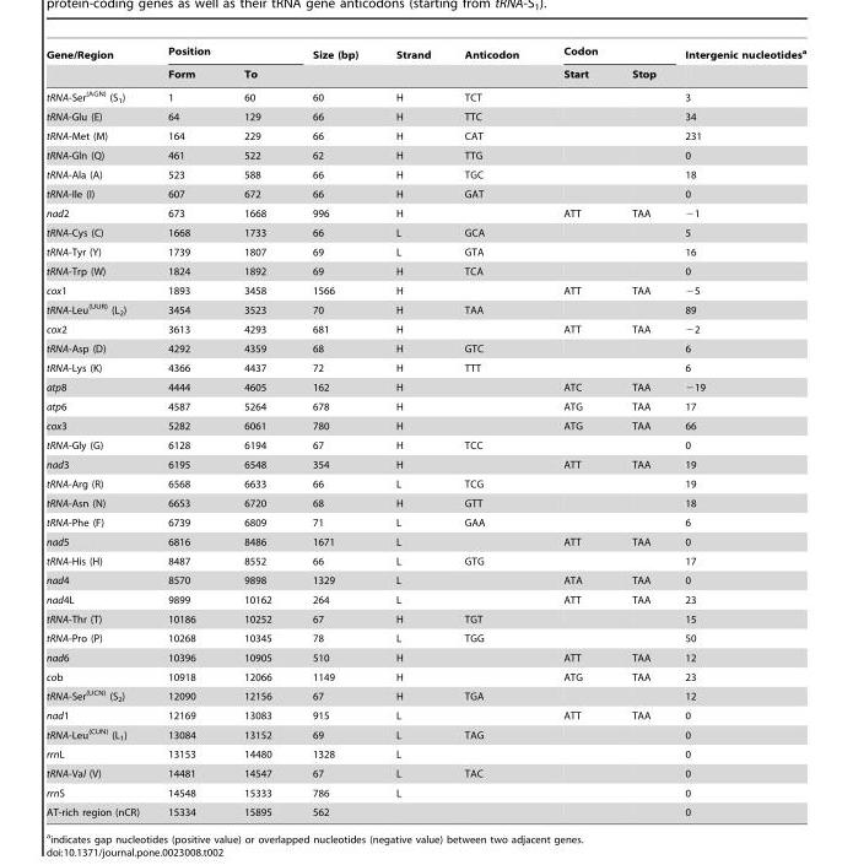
<table><thead><tr><td rowspan="2">Gene/Region</td><td colspan="2">Position</td><td rowspan="2">Size (bp)</td><td rowspan="2">Strand</td><td rowspan="2">Anticodon</td><td colspan="2">Codon</td><td rowspan="2">Intergenic nucleotides<sup>a</sup></td></tr><tr><td>Form</td><td>To</td><td>Start</td><td>Stop</td></tr></thead><tbody><tr><td>tRNA-Ser<sup>(AGN)</sup> (S<sub>1</sub>)</td><td>1</td><td>60</td><td>60</td><td>H</td><td>TCT</td><td></td><td></td><td>3</td></tr><tr><td>tRNA-Glu (E)</td><td>64</td><td>129</td><td>66</td><td>H</td><td>TTC</td><td></td><td></td><td>34</td></tr><tr><td>tRNA-Met (M)</td><td>164</td><td>229</td><td>66</td><td>H</td><td>CAT</td><td></td><td></td><td>231</td></tr><tr><td>tRNA-Gln (Q)</td><td>461</td><td>522</td><td>62</td><td>H</td><td>TTG</td><td></td><td></td><td>0</td></tr><tr><td>tRNA-Ala (A)</td><td>523</td><td>588</td><td>66</td><td>H</td><td>TGC</td><td></td><td></td><td>18</td></tr><tr><td>tRNA-Ile (I)</td><td>607</td><td>672</td><td>66</td><td>H</td><td>GAT</td><td></td><td></td><td>0</td></tr><tr><td>nad2</td><td>673</td><td>1668</td><td>996</td><td>H</td><td></td><td>ATT</td><td>TAA</td><td>−1</td></tr><tr><td>tRNA-Cys (C)</td><td>1668</td><td>1733</td><td>66</td><td>L</td><td>GCA</td><td></td><td></td><td>5</td></tr><tr><td>tRNA-Tyr (Y)</td><td>1739</td><td>1807</td><td>69</td><td>L</td><td>GTA</td><td></td><td></td><td>16</td></tr><tr><td>tRNA-Trp (W)</td><td>1824</td><td>1892</td><td>69</td><td>H</td><td>TCA</td><td></td><td></td><td>0</td></tr><tr><td>cox1</td><td>1893</td><td>3458</td><td>1566</td><td>H</td><td></td><td>ATT</td><td>TAA</td><td>−5</td></tr><tr><td>tRNA-Leu<sup>(UUR)</sup> (L<sub>2</sub>)</td><td>3454</td><td>3523</td><td>70</td><td>H</td><td>TAA</td><td></td><td></td><td>89</td></tr><tr><td>cox2</td><td>3613</td><td>4293</td><td>681</td><td>H</td><td></td><td>ATT</td><td>TAA</td><td>−2</td></tr><tr><td>tRNA-Asp (D)</td><td>4292</td><td>4359</td><td>68</td><td>H</td><td>GTC</td><td></td><td></td><td>6</td></tr><tr><td>tRNA-Lys (K)</td><td>4366</td><td>4437</td><td>72</td><td>H</td><td>TTT</td><td></td><td></td><td>6</td></tr><tr><td>atp8</td><td>4444</td><td>4605</td><td>162</td><td>H</td><td></td><td>ATC</td><td>TAA</td><td>−19</td></tr><tr><td>atp6</td><td>4587</td><td>5264</td><td>678</td><td>H</td><td></td><td>ATG</td><td>TAA</td><td>17</td></tr><tr><td>cox3</td><td>5282</td><td>6061</td><td>780</td><td>H</td><td></td><td>ATG</td><td>TAA</td><td>66</td></tr><tr><td>tRNA-Gly (G)</td><td>6128</td><td>6194</td><td>67</td><td>H</td><td>TCC</td><td></td><td></td><td>0</td></tr><tr><td>nad3</td><td>6195</td><td>6548</td><td>354</td><td>H</td><td></td><td>ATT</td><td>TAA</td><td>19</td></tr><tr><td>tRNA-Arg (R)</td><td>6568</td><td>6633</td><td>66</td><td>L</td><td>TCG</td><td></td><td></td><td>19</td></tr><tr><td>tRNA-Asn (N)</td><td>6653</td><td>6720</td><td>68</td><td>H</td><td>GTT</td><td></td><td></td><td>18</td></tr><tr><td>tRNA-Phe (F)</td><td>6739</td><td>6809</td><td>71</td><td>L</td><td>GAA</td><td></td><td></td><td>6</td></tr><tr><td>nad5</td><td>6816</td><td>8486</td><td>1671</td><td>L</td><td></td><td>ATT</td><td>TAA</td><td>0</td></tr><tr><td>tRNA-His (H)</td><td>8487</td><td>8552</td><td>66</td><td>L</td><td>GTG</td><td></td><td></td><td>17</td></tr><tr><td>nad4</td><td>8570</td><td>9898</td><td>1329</td><td>L</td><td></td><td>ATA</td><td>TAA</td><td>0</td></tr><tr><td>nad4L</td><td>9899</td><td>10162</td><td>264</td><td>L</td><td></td><td>ATT</td><td>TAA</td><td>23</td></tr><tr><td>tRNA-Thr (T)</td><td>10186</td><td>10252</td><td>67</td><td>H</td><td>TGT</td><td></td><td></td><td>15</td></tr><tr><td>tRNA-Pro (P)</td><td>10268</td><td>10345</td><td>78</td><td>L</td><td>TGG</td><td></td><td></td><td>50</td></tr><tr><td>nad6</td><td>10396</td><td>10905</td><td>510</td><td>H</td><td></td><td>ATT</td><td>TAA</td><td>12</td></tr><tr><td>cob</td><td>10918</td><td>12066</td><td>1149</td><td>H</td><td></td><td>ATG</td><td>TAA</td><td>23</td></tr><tr><td>tRNA-Ser<sup>(UCN)</sup> (S<sub>2</sub>)</td><td>12090</td><td>12156</td><td>67</td><td>H</td><td>TGA</td><td></td><td></td><td>12</td></tr><tr><td>nad1</td><td>12169</td><td>13083</td><td>915</td><td>L</td><td></td><td>ATT</td><td>TAA</td><td>0</td></tr><tr><td>tRNA-Leu<sup>(CUN)</sup> (L<sub>1</sub>)</td><td>13084</td><td>13152</td><td>69</td><td>L</td><td>TAG</td><td></td><td></td><td>0</td></tr><tr><td>rrnL</td><td>13153</td><td>14480</td><td>1328</td><td>L</td><td></td><td></td><td></td><td>0</td></tr><tr><td>tRNA-Val (V)</td><td>14481</td><td>14547</td><td>67</td><td>L</td><td>TAC</td><td></td><td></td><td>0</td></tr><tr><td>rrnS</td><td>14548</td><td>15333</td><td>786</td><td>L</td><td></td><td></td><td></td><td>0</td></tr><tr><td>AT-rich region (nCR)</td><td>15334</td><td>15895</td><td>562</td><td></td><td></td><td></td><td></td><td>0</td></tr></tbody></table>